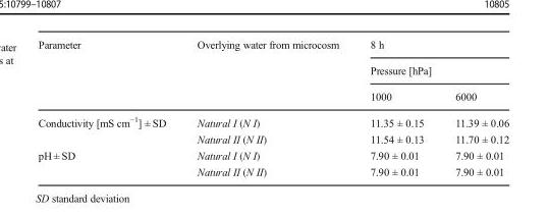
<table><thead><tr><td rowspan="3">Parameter</td><td rowspan="3">Overlying water from microcosm</td><td rowspan="2" colspan="2">8 h Pressure [hPa]</td></tr><tr></tr><tr><td>1000</td><td>6000</td></tr></thead><tbody><tr><td rowspan="2">Conductivity [mS cm<sup>−1</sup>] ± SD</td><td>Natural I (N I)</td><td>11.35 ± 0.15</td><td>11.39 ± 0.06</td></tr><tr><td>Natural II (N II)</td><td>11.54 ± 0.13</td><td>11.70 ± 0.12</td></tr><tr><td rowspan="2">pH ± SD</td><td>Natural I (N I)</td><td>7.90 ± 0.01</td><td>7.90 ± 0.01</td></tr><tr><td>Natural II (N II)</td><td>7.90 ± 0.01</td><td>7.90 ± 0.01</td></tr></tbody></table>